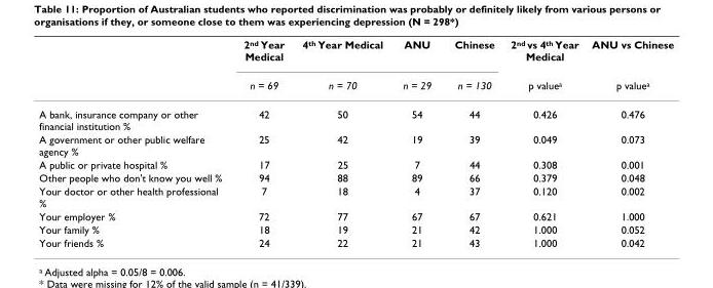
<table><thead><tr><td rowspan="2"></td><td rowspan="2">2<sup>nd</sup> Year Medical n = 69</td><td rowspan="2">4<sup>th</sup> Year Medical n = 70</td><td rowspan="2">ANU n = 29</td><td rowspan="2">Chinese n = 130</td><td rowspan="2">2<sup>nd</sup> vs 4<sup>th</sup> Year Medical p value<sup>a</sup></td><td rowspan="2">ANU vs Chinese p value<sup>a</sup></td></tr><tr></tr></thead><tbody><tr><td>A bank, insurance company or other financial institution %</td><td>42</td><td>50</td><td>54</td><td>44</td><td>0.426</td><td>0.476</td></tr><tr><td>A government or other public welfare agency %</td><td>25</td><td>42</td><td>19</td><td>39</td><td>0.049</td><td>0.073</td></tr><tr><td>A public or private hospital %</td><td>17</td><td>25</td><td>7</td><td>44</td><td>0.308</td><td>0.001</td></tr><tr><td>Other people who don&#x27;t know you well %</td><td>94</td><td>88</td><td>89</td><td>66</td><td>0.379</td><td>0.048</td></tr><tr><td>Your doctor or other health professional %</td><td>7</td><td>18</td><td>4</td><td>37</td><td>0.120</td><td>0.002</td></tr><tr><td>Your employer %</td><td>72</td><td>77</td><td>67</td><td>67</td><td>0.621</td><td>1.000</td></tr><tr><td>Your family %</td><td>18</td><td>19</td><td>21</td><td>42</td><td>1.000</td><td>0.052</td></tr><tr><td>Your friends %</td><td>24</td><td>22</td><td>21</td><td>43</td><td>1.000</td><td>0.042</td></tr></tbody></table>